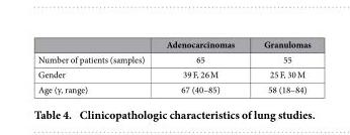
<table><thead><tr><td></td><td>Adenocarcinomas</td><td>Granulomas</td></tr></thead><tbody><tr><td>Number of patients (samples)</td><td>65</td><td>55</td></tr><tr><td>Gender</td><td>39 F, 26 M</td><td>25 F, 30 M</td></tr><tr><td>Age (y, range)</td><td>67 (40–85)</td><td>58 (18–84)</td></tr></tbody></table>